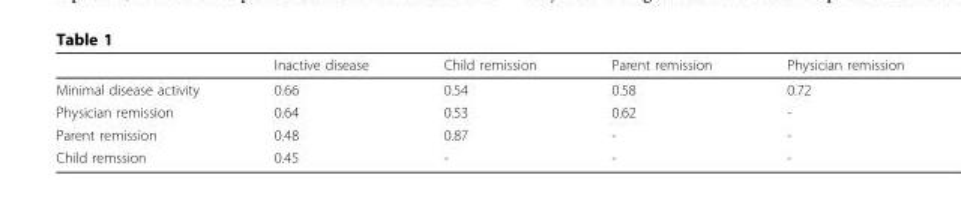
<table><thead><tr><td></td><td>Inactive disease</td><td>Child remission</td><td>Parent remission</td><td>Physician remission</td></tr></thead><tbody><tr><td>Minimal disease activity</td><td>0.66</td><td>0.54</td><td>0.58</td><td>0.72</td></tr><tr><td>Physician remission</td><td>0.64</td><td>0.53</td><td>0.62</td><td>-</td></tr><tr><td>Parent remission</td><td>0.48</td><td>0.87</td><td>-</td><td>-</td></tr><tr><td>Child remssion</td><td>0.45</td><td>-</td><td>-</td><td>-</td></tr></tbody></table>